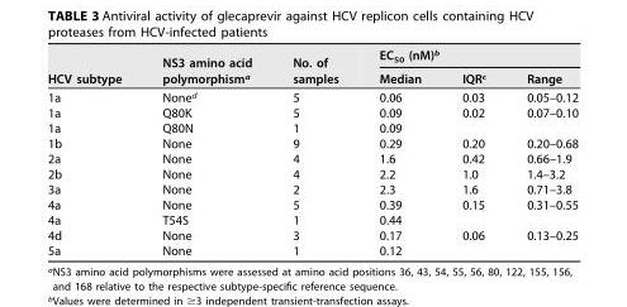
<table><thead><tr><td rowspan="2">HCV subtype</td><td rowspan="2">NS3 amino acid polymorphism<sup>a</sup></td><td rowspan="2">No. of samples</td><td colspan="3">EC<sub>50</sub> (nM)<sup>b</sup></td></tr><tr><td>Median</td><td>IQR<sup>c</sup></td><td>Range</td></tr></thead><tbody><tr><td>1a</td><td>None<sup>d</sup></td><td>5</td><td>0.06</td><td>0.03</td><td>0.05–0.12</td></tr><tr><td>1a</td><td>Q80K</td><td>5</td><td>0.09</td><td>0.02</td><td>0.07–0.10</td></tr><tr><td>1a</td><td>Q80N</td><td>1</td><td>0.09</td><td></td><td></td></tr><tr><td>1b</td><td>None</td><td>9</td><td>0.29</td><td>0.20</td><td>0.20–0.68</td></tr><tr><td>2a</td><td>None</td><td>4</td><td>1.6</td><td>0.42</td><td>0.66–1.9</td></tr><tr><td>2b</td><td>None</td><td>4</td><td>2.2</td><td>1.0</td><td>1.4–3.2</td></tr><tr><td>3a</td><td>None</td><td>2</td><td>2.3</td><td>1.6</td><td>0.71–3.8</td></tr><tr><td>4a</td><td>None</td><td>5</td><td>0.39</td><td>0.15</td><td>0.31–0.55</td></tr><tr><td>4a</td><td>T54S</td><td>1</td><td>0.44</td><td></td><td></td></tr><tr><td>4d</td><td>None</td><td>3</td><td>0.17</td><td>0.06</td><td>0.13–0.25</td></tr><tr><td>5a</td><td>None</td><td>1</td><td>0.12</td><td></td><td></td></tr></tbody></table>